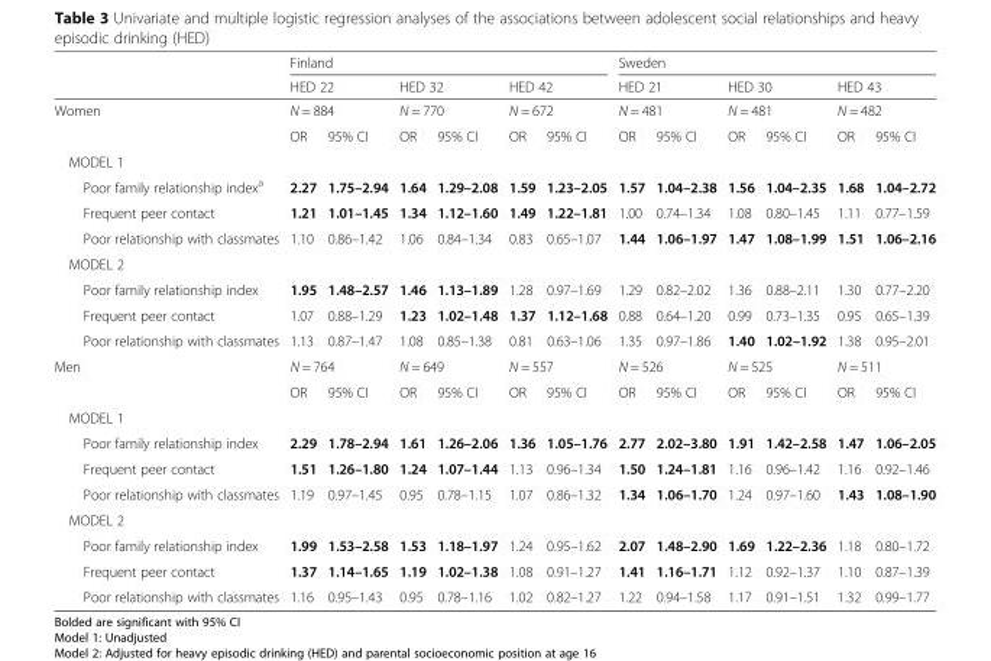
<table><thead><tr><td rowspan="4">Women</td><td colspan="6">Finland</td><td colspan="6">Sweden</td></tr><tr><td rowspan="2" colspan="2">HED 22 N = 884</td><td rowspan="2" colspan="2">HED 32 N = 770</td><td rowspan="2" colspan="2">HED 42 N = 672</td><td rowspan="2" colspan="2">HED 21 N = 481</td><td rowspan="2" colspan="2">HED 30 N = 481</td><td rowspan="2" colspan="2">HED 43 N = 482</td></tr><tr></tr><tr><td>OR</td><td>95% CI</td><td>OR</td><td>95% CI</td><td>OR</td><td>95% CI</td><td>OR</td><td>95% CI</td><td>OR</td><td>95% CI</td><td>OR</td><td>95% CI</td></tr></thead><tbody><tr><td colspan="13">MODEL 1</td></tr><tr><td>Poor family relationship index<sup>a</sup></td><td>2.27</td><td>1.75–2.94</td><td>1.64</td><td>1.29–2.08</td><td>1.59</td><td>1.23–2.05</td><td>1.57</td><td>1.04–2.38</td><td>1.56</td><td>1.04–2.35</td><td>1.68</td><td>1.04–2.72</td></tr><tr><td>Frequent peer contact</td><td>1.21</td><td>1.01–1.45</td><td>1.34</td><td>1.12–1.60</td><td>1.49</td><td>1.22–1.81</td><td>1.00</td><td>0.74–1.34</td><td>1.08</td><td>0.80–1.45</td><td>1.11</td><td>0.77–1.59</td></tr><tr><td>Poor relationship with classmates</td><td>1.10</td><td>0.86–1.42</td><td>1.06</td><td>0.84–1.34</td><td>0.83</td><td>0.65–1.07</td><td>1.44</td><td>1.06–1.97</td><td>1.47</td><td>1.08–1.99</td><td>1.51</td><td>1.06–2.16</td></tr><tr><td colspan="13">MODEL 2</td></tr><tr><td>Poor family relationship index</td><td>1.95</td><td>1.48–2.57</td><td>1.46</td><td>1.13–1.89</td><td>1.28</td><td>0.97–1.69</td><td>1.29</td><td>0.82–2.02</td><td>1.36</td><td>0.88–2.11</td><td>1.30</td><td>0.77–2.20</td></tr><tr><td>Frequent peer contact</td><td>1.07</td><td>0.88–1.29</td><td>1.23</td><td>1.02–1.48</td><td>1.37</td><td>1.12–1.68</td><td>0.88</td><td>0.64–1.20</td><td>0.99</td><td>0.73–1.35</td><td>0.95</td><td>0.65–1.39</td></tr><tr><td>Poor relationship with classmates</td><td>1.13</td><td>0.87–1.47</td><td>1.08</td><td>0.85–1.38</td><td>0.81</td><td>0.63–1.06</td><td>1.35</td><td>0.97–1.86</td><td>1.40</td><td>1.02–1.92</td><td>1.38</td><td>0.95–2.01</td></tr><tr><td rowspan="2">Men</td><td colspan="2">N = 764</td><td colspan="2">N = 649</td><td colspan="2">N = 557</td><td colspan="2">N = 526</td><td colspan="2">N = 525</td><td colspan="2">N = 511</td></tr><tr><td>OR</td><td>95% CI</td><td>OR</td><td>95% CI</td><td>OR</td><td>95% CI</td><td>OR</td><td>95% CI</td><td>OR</td><td>95% CI</td><td>OR</td><td>95% CI</td></tr><tr><td colspan="13">MODEL 1</td></tr><tr><td>Poor family relationship index</td><td>2.29</td><td>1.78–2.94</td><td>1.61</td><td>1.26–2.06</td><td>1.36</td><td>1.05–1.76</td><td>2.77</td><td>2.02–3.80</td><td>1.91</td><td>1.42–2.58</td><td>1.47</td><td>1.06–2.05</td></tr><tr><td>Frequent peer contact</td><td>1.51</td><td>1.26–1.80</td><td>1.24</td><td>1.07–1.44</td><td>1.13</td><td>0.96–1.34</td><td>1.50</td><td>1.24–1.81</td><td>1.16</td><td>0.96–1.42</td><td>1.16</td><td>0.92–1.46</td></tr><tr><td>Poor relationship with classmates</td><td>1.19</td><td>0.97–1.45</td><td>0.95</td><td>0.78–1.15</td><td>1.07</td><td>0.86–1.32</td><td>1.34</td><td>1.06–1.70</td><td>1.24</td><td>0.97–1.60</td><td>1.43</td><td>1.08–1.90</td></tr><tr><td colspan="13">MODEL 2</td></tr><tr><td>Poor family relationship index</td><td>1.99</td><td>1.53–2.58</td><td>1.53</td><td>1.18–1.97</td><td>1.24</td><td>0.95–1.62</td><td>2.07</td><td>1.48–2.90</td><td>1.69</td><td>1.22–2.36</td><td>1.18</td><td>0.80–1.72</td></tr><tr><td>Frequent peer contact</td><td>1.37</td><td>1.14–1.65</td><td>1.19</td><td>1.02–1.38</td><td>1.08</td><td>0.91–1.27</td><td>1.41</td><td>1.16–1.71</td><td>1.12</td><td>0.92–1.37</td><td>1.10</td><td>0.87–1.39</td></tr><tr><td>Poor relationship with classmates</td><td>1.16</td><td>0.95–1.43</td><td>0.95</td><td>0.78–1.16</td><td>1.02</td><td>0.82–1.27</td><td>1.22</td><td>0.94–1.58</td><td>1.17</td><td>0.91–1.51</td><td>1.32</td><td>0.99–1.77</td></tr></tbody></table>